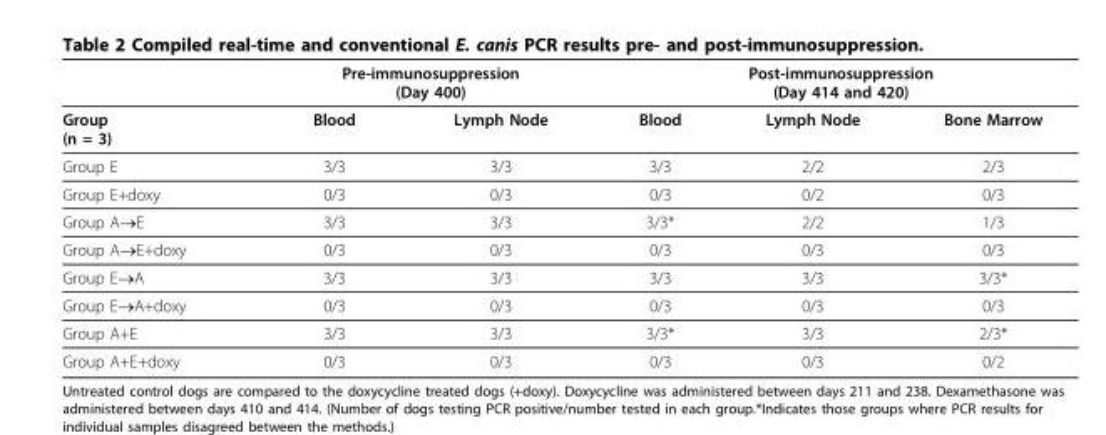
<table><thead><tr><td rowspan="2">Group (n = 3)</td><td colspan="2">Pre-immunosuppression (Day 400)</td><td colspan="3">Post-immunosuppression (Day 414 and 420)</td></tr><tr><td>Blood</td><td>Lymph Node</td><td>Blood</td><td>Lymph Node</td><td>Bone Marrow</td></tr></thead><tbody><tr><td>Group E</td><td>3/3</td><td>3/3</td><td>3/3</td><td>2/2</td><td>2/3</td></tr><tr><td>Group E+doxy</td><td>0/3</td><td>0/3</td><td>0/3</td><td>0/2</td><td>0/3</td></tr><tr><td>Group A→E</td><td>3/3</td><td>3/3</td><td>3/3*</td><td>2/2</td><td>1/3</td></tr><tr><td>Group A→E+doxy</td><td>0/3</td><td>0/3</td><td>0/3</td><td>0/3</td><td>0/3</td></tr><tr><td>Group E→A</td><td>3/3</td><td>3/3</td><td>3/3</td><td>3/3</td><td>3/3*</td></tr><tr><td>Group E→A+doxy</td><td>0/3</td><td>0/3</td><td>0/3</td><td>0/3</td><td>0/3</td></tr><tr><td>Group A+E</td><td>3/3</td><td>3/3</td><td>3/3*</td><td>3/3</td><td>2/3*</td></tr><tr><td>Group A+E+doxy</td><td>0/3</td><td>0/3</td><td>0/3</td><td>0/3</td><td>0/2</td></tr></tbody></table>